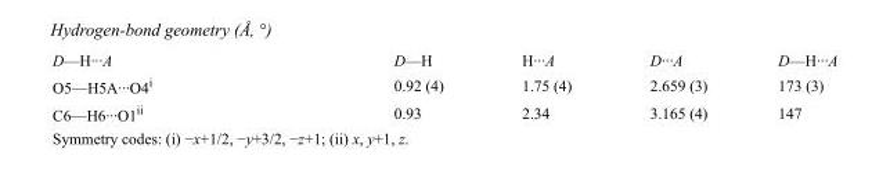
<table><tbody><tr><td>D—H···A</td><td>D—H</td><td>H···A</td><td>D···A</td><td>D—H···A</td></tr><tr><td>O5—H5A···O4<sup>i</sup></td><td>0.92 (4)</td><td>1.75 (4)</td><td>2.659 (3)</td><td>173 (3)</td></tr><tr><td>C6—H6···O1<sup>ii</sup></td><td>0.93</td><td>2.34</td><td>3.165 (4)</td><td>147</td></tr></tbody></table>